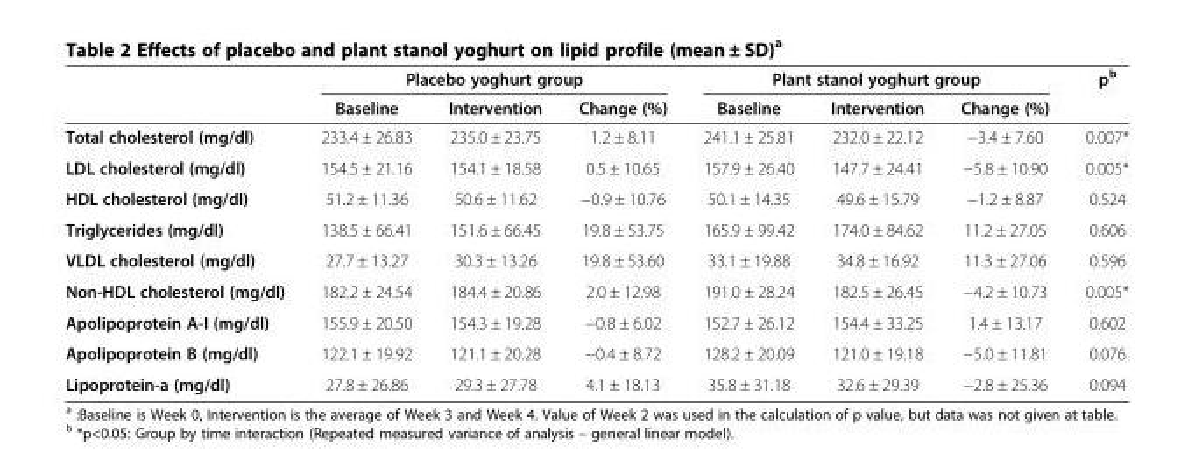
<table><thead><tr><td rowspan="2"></td><td colspan="3">Placebo yoghurt group</td><td colspan="3">Plant stanol yoghurt group</td><td rowspan="2">p<sup>b</sup></td></tr><tr><td>Baseline</td><td>Intervention</td><td>Change (%)</td><td>Baseline</td><td>Intervention</td><td>Change (%)</td></tr></thead><tbody><tr><td>Total cholesterol (mg/dl)</td><td>233.4 ± 26.83</td><td>235.0 ± 23.75</td><td>1.2 ± 8.11</td><td>241.1 ± 25.81</td><td>232.0 ± 22.12</td><td>−3.4 ± 7.60</td><td>0.007*</td></tr><tr><td>LDL cholesterol (mg/dl)</td><td>154.5 ± 21.16</td><td>154.1 ± 18.58</td><td>0.5 ± 10.65</td><td>157.9 ± 26.40</td><td>147.7 ± 24.41</td><td>−5.8 ± 10.90</td><td>0.005*</td></tr><tr><td>HDL cholesterol (mg/dl)</td><td>51.2 ± 11.36</td><td>50.6 ± 11.62</td><td>−0.9 ± 10.76</td><td>50.1 ± 14.35</td><td>49.6 ± 15.79</td><td>−1.2 ± 8.87</td><td>0.524</td></tr><tr><td>Triglycerides (mg/dl)</td><td>138.5 ± 66.41</td><td>151.6 ± 66.45</td><td>19.8 ± 53.75</td><td>165.9 ± 99.42</td><td>174.0 ± 84.62</td><td>11.2 ± 27.05</td><td>0.606</td></tr><tr><td>VLDL cholesterol (mg/dl)</td><td>27.7 ± 13.27</td><td>30.3 ± 13.26</td><td>19.8 ± 53.60</td><td>33.1 ± 19.88</td><td>34.8 ± 16.92</td><td>11.3 ± 27.06</td><td>0.596</td></tr><tr><td>Non-HDL cholesterol (mg/dl)</td><td>182.2 ± 24.54</td><td>184.4 ± 20.86</td><td>2.0 ± 12.98</td><td>191.0 ± 28.24</td><td>182.5 ± 26.45</td><td>−4.2 ± 10.73</td><td>0.005*</td></tr><tr><td>Apolipoprotein A-I (mg/dl)</td><td>155.9 ± 20.50</td><td>154.3 ± 19.28</td><td>−0.8 ± 6.02</td><td>152.7 ± 26.12</td><td>154.4 ± 33.25</td><td>1.4 ± 13.17</td><td>0.602</td></tr><tr><td>Apolipoprotein B (mg/dl)</td><td>122.1 ± 19.92</td><td>121.1 ± 20.28</td><td>−0.4 ± 8.72</td><td>128.2 ± 20.09</td><td>121.0 ± 19.18</td><td>−5.0 ± 11.81</td><td>0.076</td></tr><tr><td>Lipoprotein-a (mg/dl)</td><td>27.8 ± 26.86</td><td>29.3 ± 27.78</td><td>4.1 ± 18.13</td><td>35.8 ± 31.18</td><td>32.6 ± 29.39</td><td>−2.8 ± 25.36</td><td>0.094</td></tr></tbody></table>